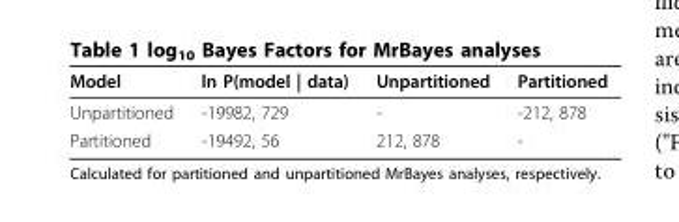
<table><thead><tr><td>Model</td><td>ln P(model | data)</td><td>Unpartitioned</td><td>Partitioned</td></tr></thead><tbody><tr><td>Unpartitioned</td><td>-19982, 729</td><td>-</td><td>-212, 878</td></tr><tr><td>Partitioned</td><td>-19492, 56</td><td>212, 878</td><td>-</td></tr></tbody></table>